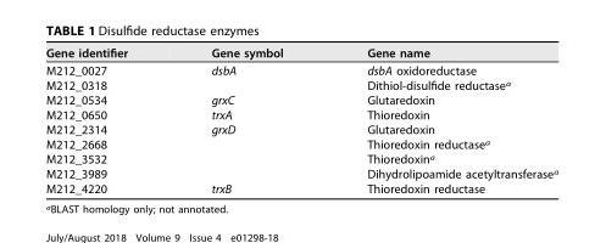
<table><thead><tr><td>Gene identifier</td><td>Gene symbol</td><td>Gene name</td></tr></thead><tbody><tr><td>M212_0027</td><td>dsbA</td><td>dsbA oxidoreductase</td></tr><tr><td>M212_0318</td><td></td><td>Dithiol-disulfide reductase<sup>a</sup></td></tr><tr><td>M212_0534</td><td>grxC</td><td>Glutaredoxin</td></tr><tr><td>M212_0650</td><td>trxA</td><td>Thioredoxin</td></tr><tr><td>M212_2314</td><td>grxD</td><td>Glutaredoxin</td></tr><tr><td>M212_2668</td><td></td><td>Thioredoxin reductase<sup>a</sup></td></tr><tr><td>M212_3532</td><td></td><td>Thioredoxin<sup>a</sup></td></tr><tr><td>M212_3989</td><td></td><td>Dihydrolipoamide acetyltransferase<sup>a</sup></td></tr><tr><td>M212_4220</td><td>trxB</td><td>Thioredoxin reductase</td></tr></tbody></table>